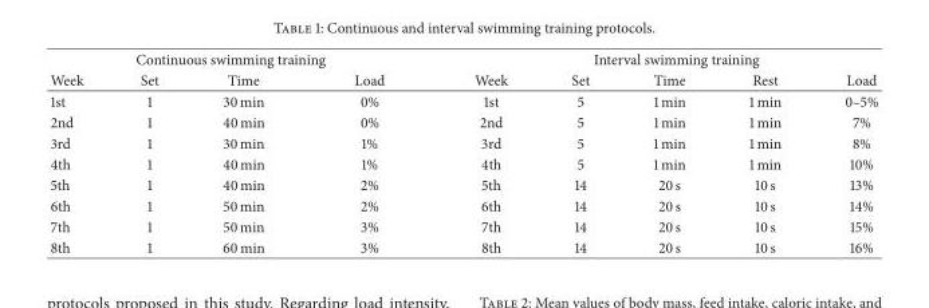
<table><thead><tr><td colspan="4">Continuous swimming training</td><td colspan="5">Interval swimming training</td></tr><tr><td>Week</td><td>Set</td><td>Time</td><td>Load</td><td>Week</td><td>Set</td><td>Time</td><td>Rest</td><td>Load</td></tr></thead><tbody><tr><td>1st</td><td>1</td><td>30 min</td><td>0%</td><td>1st</td><td>5</td><td>1 min</td><td>1 min</td><td>0–5%</td></tr><tr><td>2nd</td><td>1</td><td>40 min</td><td>0%</td><td>2nd</td><td>5</td><td>1 min</td><td>1 min</td><td>7%</td></tr><tr><td>3rd</td><td>1</td><td>30 min</td><td>1%</td><td>3rd</td><td>5</td><td>1 min</td><td>1 min</td><td>8%</td></tr><tr><td>4th</td><td>1</td><td>40 min</td><td>1%</td><td>4th</td><td>5</td><td>1 min</td><td>1 min</td><td>10%</td></tr><tr><td>5th</td><td>1</td><td>40 min</td><td>2%</td><td>5th</td><td>14</td><td>20 s</td><td>10 s</td><td>13%</td></tr><tr><td>6th</td><td>1</td><td>50 min</td><td>2%</td><td>6th</td><td>14</td><td>20 s</td><td>10 s</td><td>14%</td></tr><tr><td>7th</td><td>1</td><td>50 min</td><td>3%</td><td>7th</td><td>14</td><td>20 s</td><td>10 s</td><td>15%</td></tr><tr><td>8th</td><td>1</td><td>60 min</td><td>3%</td><td>8th</td><td>14</td><td>20 s</td><td>10 s</td><td>16%</td></tr></tbody></table>